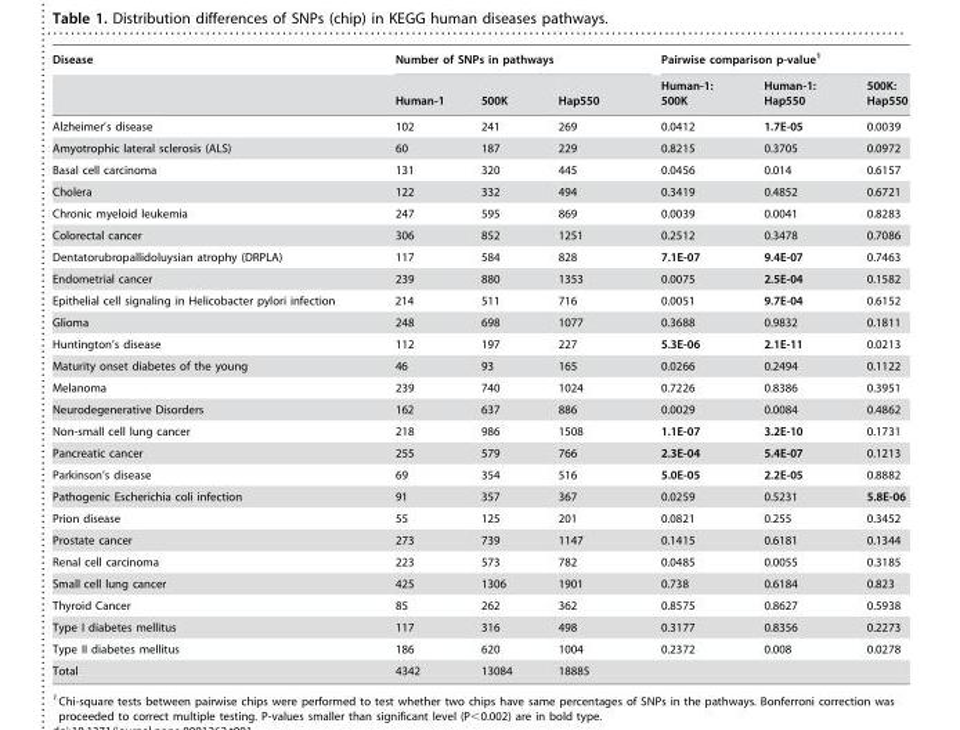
<table><thead><tr><td rowspan="2">Disease</td><td colspan="3">Number of SNPs in pathways</td><td colspan="3">Pairwise comparison p-value<sup>1</sup></td></tr><tr><td>Human-1</td><td>500K</td><td>Hap550</td><td>Human-1: 500K</td><td>Human-1: Hap550</td><td>500K: Hap550</td></tr></thead><tbody><tr><td>Alzheimer’s disease</td><td>102</td><td>241</td><td>269</td><td>0.0412</td><td>1.7E-05</td><td>0.0039</td></tr><tr><td>Amyotrophic lateral sclerosis (ALS)</td><td>60</td><td>187</td><td>229</td><td>0.8215</td><td>0.3705</td><td>0.0972</td></tr><tr><td>Basal cell carcinoma</td><td>131</td><td>320</td><td>445</td><td>0.0456</td><td>0.014</td><td>0.6157</td></tr><tr><td>Cholera</td><td>122</td><td>332</td><td>494</td><td>0.3419</td><td>0.4852</td><td>0.6721</td></tr><tr><td>Chronic myeloid leukemia</td><td>247</td><td>595</td><td>869</td><td>0.0039</td><td>0.0041</td><td>0.8283</td></tr><tr><td>Colorectal cancer</td><td>306</td><td>852</td><td>1251</td><td>0.2512</td><td>0.3478</td><td>0.7086</td></tr><tr><td>Dentatorubropallidoluysian atrophy (DRPLA)</td><td>117</td><td>584</td><td>828</td><td>7.1E-07</td><td>9.4E-07</td><td>0.7463</td></tr><tr><td>Endometrial cancer</td><td>239</td><td>880</td><td>1353</td><td>0.0075</td><td>2.5E-04</td><td>0.1582</td></tr><tr><td>Epithelial cell signaling in Helicobacter pylori infection</td><td>214</td><td>511</td><td>716</td><td>0.0051</td><td>9.7E-04</td><td>0.6152</td></tr><tr><td>Glioma</td><td>248</td><td>698</td><td>1077</td><td>0.3688</td><td>0.9832</td><td>0.1811</td></tr><tr><td>Huntington’s disease</td><td>112</td><td>197</td><td>227</td><td>5.3E-06</td><td>2.1E-11</td><td>0.0213</td></tr><tr><td>Maturity onset diabetes of the young</td><td>46</td><td>93</td><td>165</td><td>0.0266</td><td>0.2494</td><td>0.1122</td></tr><tr><td>Melanoma</td><td>239</td><td>740</td><td>1024</td><td>0.7226</td><td>0.8386</td><td>0.3951</td></tr><tr><td>Neurodegenerative Disorders</td><td>162</td><td>637</td><td>886</td><td>0.0029</td><td>0.0084</td><td>0.4862</td></tr><tr><td>Non-small cell lung cancer</td><td>218</td><td>986</td><td>1508</td><td>1.1E-07</td><td>3.2E-10</td><td>0.1731</td></tr><tr><td>Pancreatic cancer</td><td>255</td><td>579</td><td>766</td><td>2.3E-04</td><td>5.4E-07</td><td>0.1213</td></tr><tr><td>Parkinson’s disease</td><td>69</td><td>354</td><td>516</td><td>5.0E-05</td><td>2.2E-05</td><td>0.8882</td></tr><tr><td>Pathogenic Escherichia coli infection</td><td>91</td><td>357</td><td>367</td><td>0.0259</td><td>0.5231</td><td>5.8E-06</td></tr><tr><td>Prion disease</td><td>55</td><td>125</td><td>201</td><td>0.0821</td><td>0.255</td><td>0.3452</td></tr><tr><td>Prostate cancer</td><td>273</td><td>739</td><td>1147</td><td>0.1415</td><td>0.6181</td><td>0.1344</td></tr><tr><td>Renal cell carcinoma</td><td>223</td><td>573</td><td>782</td><td>0.0485</td><td>0.0055</td><td>0.3185</td></tr><tr><td>Small cell lung cancer</td><td>425</td><td>1306</td><td>1901</td><td>0.738</td><td>0.6184</td><td>0.823</td></tr><tr><td>Thyroid Cancer</td><td>85</td><td>262</td><td>362</td><td>0.8575</td><td>0.8627</td><td>0.5938</td></tr><tr><td>Type I diabetes mellitus</td><td>117</td><td>316</td><td>498</td><td>0.3177</td><td>0.8356</td><td>0.2273</td></tr><tr><td>Type II diabetes mellitus</td><td>186</td><td>620</td><td>1004</td><td>0.2372</td><td>0.008</td><td>0.0278</td></tr><tr><td>Total</td><td>4342</td><td>13084</td><td>18885</td><td></td><td></td><td></td></tr></tbody></table>